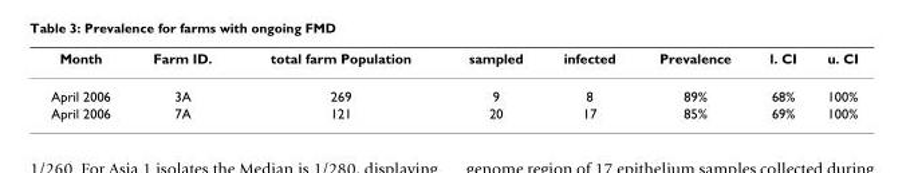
<table><thead><tr><td>Month</td><td>Farm ID.</td><td>total farm Population</td><td>sampled</td><td>infected</td><td>Prevalence</td><td>l. CI</td><td>u. CI</td></tr></thead><tbody><tr><td>April 2006</td><td>3A</td><td>269</td><td>9</td><td>8</td><td>89%</td><td>68%</td><td>100%</td></tr><tr><td>April 2006</td><td>7A</td><td>121</td><td>20</td><td>17</td><td>85%</td><td>69%</td><td>100%</td></tr></tbody></table>